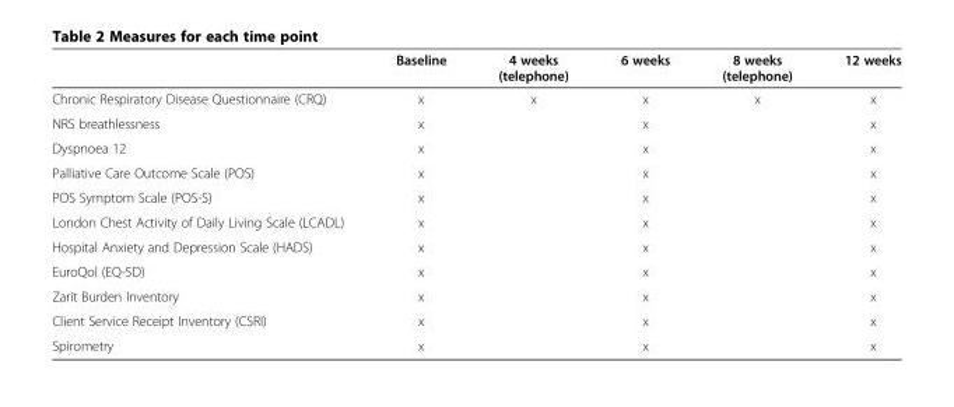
<table><thead><tr><td></td><td>Baseline</td><td>4 weeks (telephone)</td><td>6 weeks</td><td>8 weeks (telephone)</td><td>12 weeks</td></tr></thead><tbody><tr><td>Chronic Respiratory Disease Questionnaire (CRQ)</td><td>x</td><td>x</td><td>x</td><td>x</td><td>x</td></tr><tr><td>NRS breathlessness</td><td>x</td><td></td><td>x</td><td></td><td>x</td></tr><tr><td>Dyspnoea 12</td><td>x</td><td></td><td>x</td><td></td><td>x</td></tr><tr><td>Palliative Care Outcome Scale (POS)</td><td>x</td><td></td><td>x</td><td></td><td>x</td></tr><tr><td>POS Symptom Scale (POS-S)</td><td>x</td><td></td><td>x</td><td></td><td>x</td></tr><tr><td>London Chest Activity of Daily Living Scale (LCADL)</td><td>x</td><td></td><td>x</td><td></td><td>x</td></tr><tr><td>Hospital Anxiety and Depression Scale (HADS)</td><td>x</td><td></td><td>x</td><td></td><td>x</td></tr><tr><td>EuroQol (EQ-5D)</td><td>x</td><td></td><td>x</td><td></td><td>x</td></tr><tr><td>Zarit Burden Inventory</td><td>x</td><td></td><td>x</td><td></td><td>x</td></tr><tr><td>Client Service Receipt Inventory (CSRI)</td><td>x</td><td></td><td>x</td><td></td><td>x</td></tr><tr><td>Spirometry</td><td>x</td><td></td><td>x</td><td></td><td>x</td></tr></tbody></table>